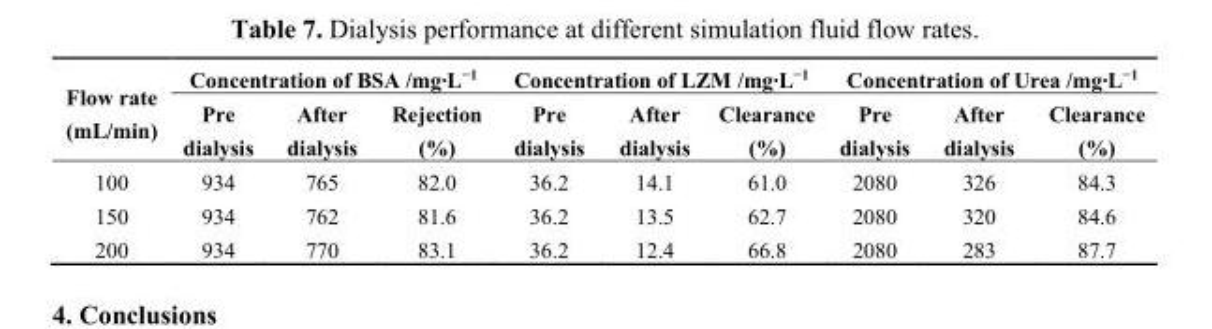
<table><thead><tr><td rowspan="2">Flow rate (mL/min)</td><td colspan="3">Concentration of BSA /mg∙L<sup>−1</sup></td><td colspan="3">Concentration of LZM /mg∙L<sup>−1</sup></td><td colspan="3">Concentration of Urea /mg∙L<sup>−1</sup></td></tr><tr><td>Pre dialysis</td><td>After dialysis</td><td>Rejection (%)</td><td>Pre dialysis</td><td>After dialysis</td><td>Clearance (%)</td><td>Pre dialysis</td><td>After dialysis</td><td>Clearance (%)</td></tr></thead><tbody><tr><td>100</td><td>934</td><td>765</td><td>82.0</td><td>36.2</td><td>14.1</td><td>61.0</td><td>2080</td><td>326</td><td>84.3</td></tr><tr><td>150</td><td>934</td><td>762</td><td>81.6</td><td>36.2</td><td>13.5</td><td>62.7</td><td>2080</td><td>320</td><td>84.6</td></tr><tr><td>200</td><td>934</td><td>770</td><td>83.1</td><td>36.2</td><td>12.4</td><td>66.8</td><td>2080</td><td>283</td><td>87.7</td></tr></tbody></table>